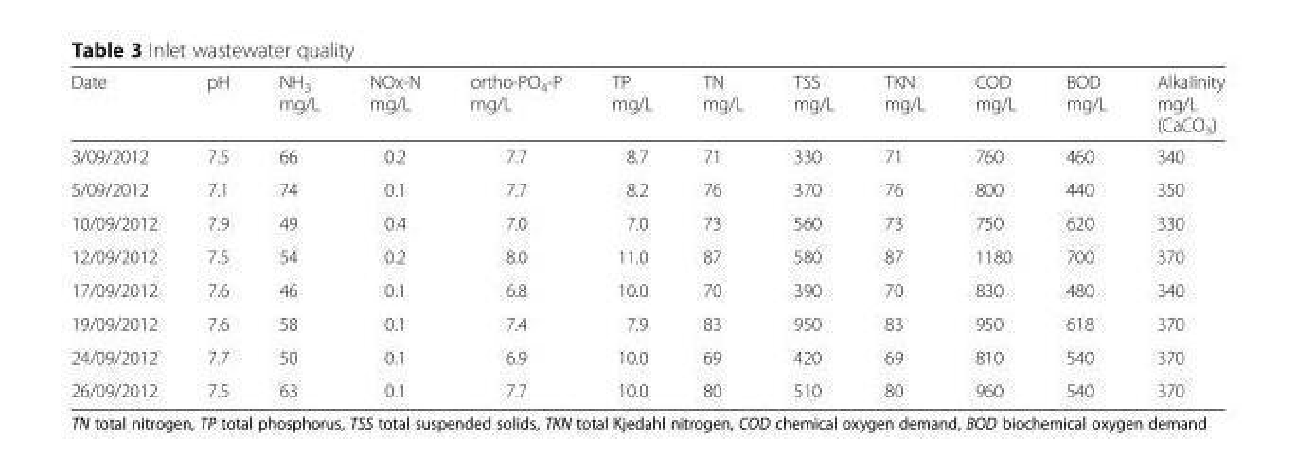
<table><thead><tr><td>Date</td><td>pH</td><td>NH<sub>3</sub> mg/L</td><td>NOx-N mg/L</td><td>ortho-PO<sub>4</sub>-P mg/L</td><td>TP mg/L</td><td>TN mg/L</td><td>TSS mg/L</td><td>TKN mg/L</td><td>COD mg/L</td><td>BOD mg/L</td><td>Alkalinity mg/L (CaCO<sub>3</sub>)</td></tr></thead><tbody><tr><td>3/09/2012</td><td>7.5</td><td>66</td><td>0.2</td><td>7.7</td><td>8.7</td><td>71</td><td>330</td><td>71</td><td>760</td><td>460</td><td>340</td></tr><tr><td>5/09/2012</td><td>7.1</td><td>74</td><td>0.1</td><td>7.7</td><td>8.2</td><td>76</td><td>370</td><td>76</td><td>800</td><td>440</td><td>350</td></tr><tr><td>10/09/2012</td><td>7.9</td><td>49</td><td>0.4</td><td>7.0</td><td>7.0</td><td>73</td><td>560</td><td>73</td><td>750</td><td>620</td><td>330</td></tr><tr><td>12/09/2012</td><td>7.5</td><td>54</td><td>0.2</td><td>8.0</td><td>11.0</td><td>87</td><td>580</td><td>87</td><td>1180</td><td>700</td><td>370</td></tr><tr><td>17/09/2012</td><td>7.6</td><td>46</td><td>0.1</td><td>6.8</td><td>10.0</td><td>70</td><td>390</td><td>70</td><td>830</td><td>480</td><td>340</td></tr><tr><td>19/09/2012</td><td>7.6</td><td>58</td><td>0.1</td><td>7.4</td><td>7.9</td><td>83</td><td>950</td><td>83</td><td>950</td><td>618</td><td>370</td></tr><tr><td>24/09/2012</td><td>7.7</td><td>50</td><td>0.1</td><td>6.9</td><td>10.0</td><td>69</td><td>420</td><td>69</td><td>810</td><td>540</td><td>370</td></tr><tr><td>26/09/2012</td><td>7.5</td><td>63</td><td>0.1</td><td>7.7</td><td>10.0</td><td>80</td><td>510</td><td>80</td><td>960</td><td>540</td><td>370</td></tr></tbody></table>